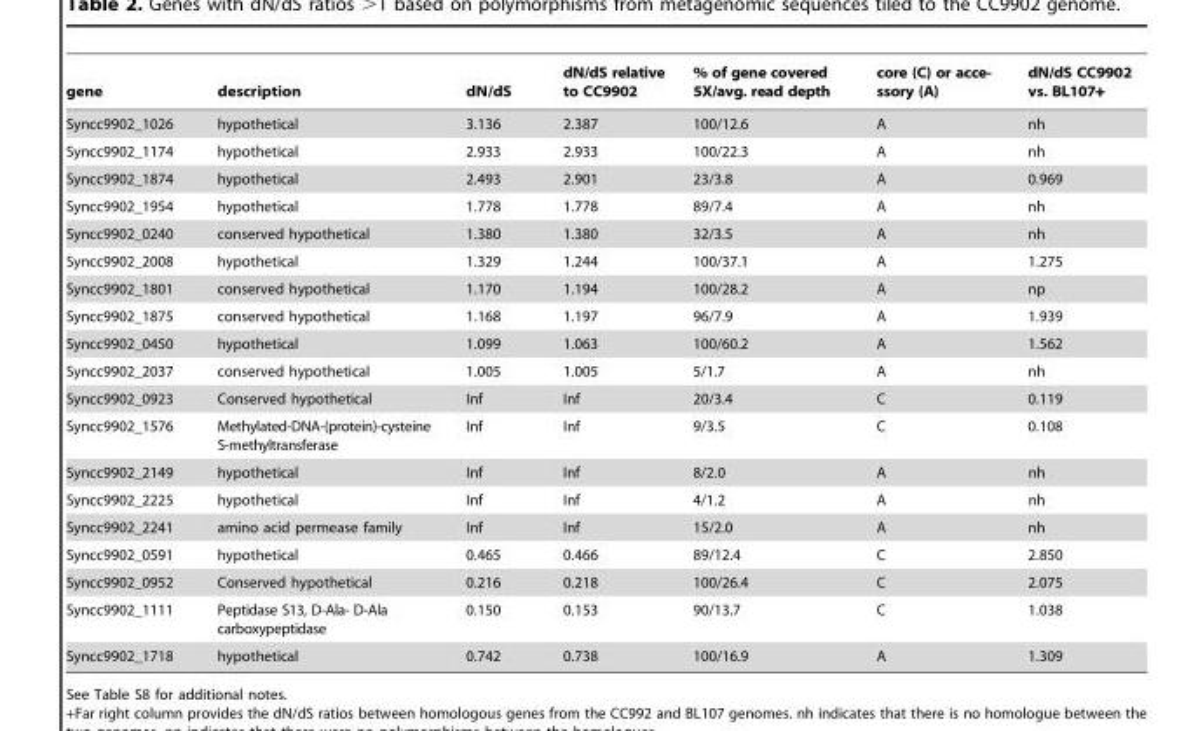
<table><thead><tr><td>gene</td><td>description</td><td>dN/dS</td><td>dN/dS relative to CC9902</td><td>% of gene covered 5X/avg. read depth</td><td>core (C) or acce- ssory (A)</td><td>dN/dS CC9902 vs. BL107+</td></tr></thead><tbody><tr><td>Syncc9902_1026</td><td>hypothetical</td><td>3.136</td><td>2.387</td><td>100/12.6</td><td>A</td><td>nh</td></tr><tr><td>Syncc9902_1174</td><td>hypothetical</td><td>2.933</td><td>2.933</td><td>100/22.3</td><td>A</td><td>nh</td></tr><tr><td>Syncc9902_1874</td><td>hypothetical</td><td>2.493</td><td>2.901</td><td>23/3.8</td><td>A</td><td>0.969</td></tr><tr><td>Syncc9902_1954</td><td>hypothetical</td><td>1.778</td><td>1.778</td><td>89/7.4</td><td>A</td><td>nh</td></tr><tr><td>Syncc9902_0240</td><td>conserved hypothetical</td><td>1.380</td><td>1.380</td><td>32/3.5</td><td>A</td><td>nh</td></tr><tr><td>Syncc9902_2008</td><td>hypothetical</td><td>1.329</td><td>1.244</td><td>100/37.1</td><td>A</td><td>1.275</td></tr><tr><td>Syncc9902_1801</td><td>conserved hypothetical</td><td>1.170</td><td>1.194</td><td>100/28.2</td><td>A</td><td>np</td></tr><tr><td>Syncc9902_1875</td><td>conserved hypothetical</td><td>1.168</td><td>1.197</td><td>96/7.9</td><td>A</td><td>1.939</td></tr><tr><td>Syncc9902_0450</td><td>hypothetical</td><td>1.099</td><td>1.063</td><td>100/60.2</td><td>A</td><td>1.562</td></tr><tr><td>Syncc9902_2037</td><td>conserved hypothetical</td><td>1.005</td><td>1.005</td><td>5/1.7</td><td>A</td><td>nh</td></tr><tr><td>Syncc9902_0923</td><td>Conserved hypothetical</td><td>Inf</td><td>Inf</td><td>20/3.4</td><td>C</td><td>0.119</td></tr><tr><td>Syncc9902_1576</td><td>Methylated-DNA-(protein)-cysteine S-methyltransferase</td><td>Inf</td><td>Inf</td><td>9/3.5</td><td>C</td><td>0.108</td></tr><tr><td>Syncc9902_2149</td><td>hypothetical</td><td>Inf</td><td>Inf</td><td>8/2.0</td><td>A</td><td>nh</td></tr><tr><td>Syncc9902_2225</td><td>hypothetical</td><td>Inf</td><td>Inf</td><td>4/1.2</td><td>A</td><td>nh</td></tr><tr><td>Syncc9902_2241</td><td>amino acid permease family</td><td>Inf</td><td>Inf</td><td>15/2.0</td><td>A</td><td>nh</td></tr><tr><td>Syncc9902_0591</td><td>hypothetical</td><td>0.465</td><td>0.466</td><td>89/12.4</td><td>C</td><td>2.850</td></tr><tr><td>Syncc9902_0952</td><td>Conserved hypothetical</td><td>0.216</td><td>0.218</td><td>100/26.4</td><td>C</td><td>2.075</td></tr><tr><td>Syncc9902_1111</td><td>Peptidase S13, D-Ala- D-Ala carboxypeptidase</td><td>0.150</td><td>0.153</td><td>90/13.7</td><td>C</td><td>1.038</td></tr><tr><td>Syncc9902_1718</td><td>hypothetical</td><td>0.742</td><td>0.738</td><td>100/16.9</td><td>A</td><td>1.309</td></tr></tbody></table>